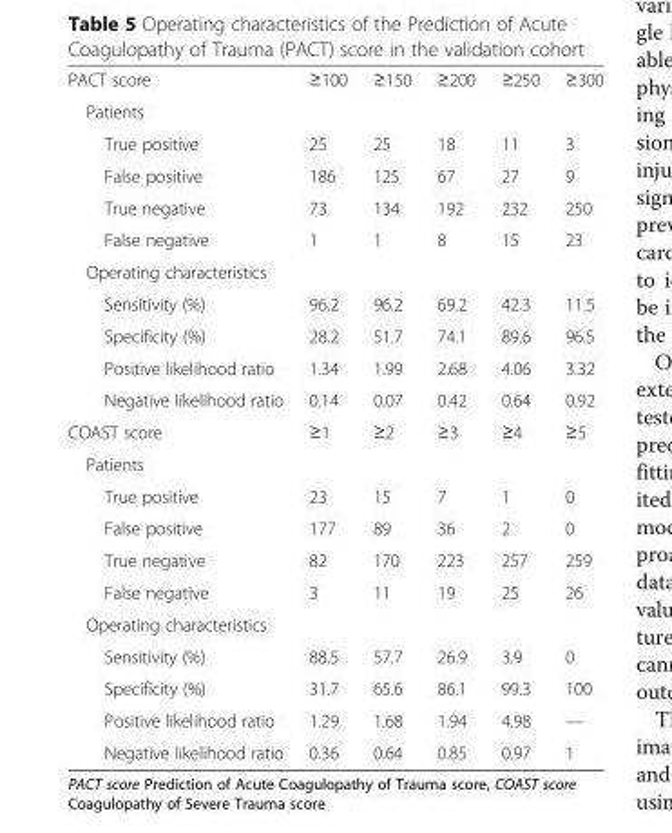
<table><tbody><tr><td>PACT score</td><td>≥100</td><td>≥150</td><td>≥200</td><td>≥250</td><td>≥300</td></tr><tr><td colspan="6">Patients</td></tr><tr><td>True positive</td><td>25</td><td>25</td><td>18</td><td>11</td><td>3</td></tr><tr><td>False positive</td><td>186</td><td>125</td><td>67</td><td>27</td><td>9</td></tr><tr><td>True negative</td><td>73</td><td>134</td><td>192</td><td>232</td><td>250</td></tr><tr><td>False negative</td><td>1</td><td>1</td><td>8</td><td>15</td><td>23</td></tr><tr><td colspan="6">Operating characteristics</td></tr><tr><td>Sensitivity (%)</td><td>96.2</td><td>96.2</td><td>69.2</td><td>42.3</td><td>11.5</td></tr><tr><td>Specificity (%)</td><td>28.2</td><td>51.7</td><td>74.1</td><td>89.6</td><td>96.5</td></tr><tr><td>Positive likelihood ratio</td><td>1.34</td><td>1.99</td><td>2.68</td><td>4.06</td><td>3.32</td></tr><tr><td>Negative likelihood ratio</td><td>0.14</td><td>0.07</td><td>0.42</td><td>0.64</td><td>0.92</td></tr><tr><td>COAST score</td><td>≥1</td><td>≥2</td><td>≥3</td><td>≥4</td><td>≥5</td></tr><tr><td colspan="6">Patients</td></tr><tr><td>True positive</td><td>23</td><td>15</td><td>7</td><td>1</td><td>0</td></tr><tr><td>False positive</td><td>177</td><td>89</td><td>36</td><td>2</td><td>0</td></tr><tr><td>True negative</td><td>82</td><td>170</td><td>223</td><td>257</td><td>259</td></tr><tr><td>False negative</td><td>3</td><td>11</td><td>19</td><td>25</td><td>26</td></tr><tr><td colspan="6">Operating characteristics</td></tr><tr><td>Sensitivity (%)</td><td>88.5</td><td>57.7</td><td>26.9</td><td>3.9</td><td>0</td></tr><tr><td>Specificity (%)</td><td>31.7</td><td>65.6</td><td>86.1</td><td>99.3</td><td>100</td></tr><tr><td>Positive likelihood ratio</td><td>1.29</td><td>1.68</td><td>1.94</td><td>4.98</td><td>—</td></tr><tr><td>Negative likelihood ratio</td><td>0.36</td><td>0.64</td><td>0.85</td><td>0.97</td><td>1</td></tr></tbody></table>